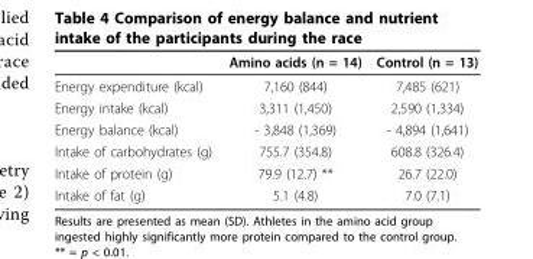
<table><thead><tr><td></td><td>Amino acids (n = 14)</td><td>Control (n = 13)</td></tr></thead><tbody><tr><td>Energy expenditure (kcal)</td><td>7,160 (844)</td><td>7,485 (621)</td></tr><tr><td>Energy intake (kcal)</td><td>3,311 (1,450)</td><td>2,590 (1,334)</td></tr><tr><td>Energy balance (kcal)</td><td>- 3,848 (1,369)</td><td>- 4,894 (1,641)</td></tr><tr><td>Intake of carbohydrates (g)</td><td>755.7 (354.8)</td><td>608.8 (326.4)</td></tr><tr><td>Intake of protein (g)</td><td>79.9 (12.7) **</td><td>26.7 (22.0)</td></tr><tr><td>Intake of fat (g)</td><td>5.1 (4.8)</td><td>7.0 (7.1)</td></tr></tbody></table>